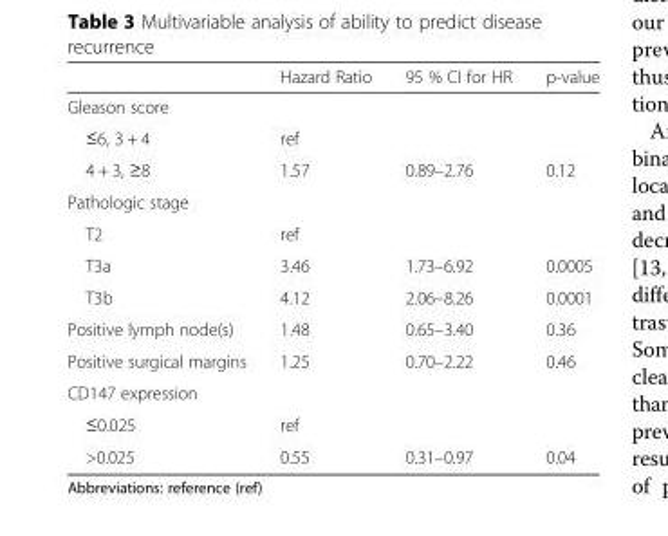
<table><thead><tr><td></td><td>Hazard Ratio</td><td>95 % CI for HR</td><td>p-value</td></tr></thead><tbody><tr><td colspan="4">Gleason score</td></tr><tr><td>≤6, 3 + 4</td><td>ref</td><td></td><td></td></tr><tr><td>4 + 3, ≥8</td><td>1.57</td><td>0.89–2.76</td><td>0.12</td></tr><tr><td colspan="4">Pathologic stage</td></tr><tr><td>T2</td><td>ref</td><td></td><td></td></tr><tr><td>T3a</td><td>3.46</td><td>1.73–6.92</td><td>0.0005</td></tr><tr><td>T3b</td><td>4.12</td><td>2.06–8.26</td><td>0.0001</td></tr><tr><td>Positive lymph node(s)</td><td>1.48</td><td>0.65–3.40</td><td>0.36</td></tr><tr><td>Positive surgical margins</td><td>1.25</td><td>0.70–2.22</td><td>0.46</td></tr><tr><td colspan="4">CD147 expression</td></tr><tr><td>≤0.025</td><td>ref</td><td></td><td></td></tr><tr><td>&gt;0.025</td><td>0.55</td><td>0.31–0.97</td><td>0.04</td></tr></tbody></table>